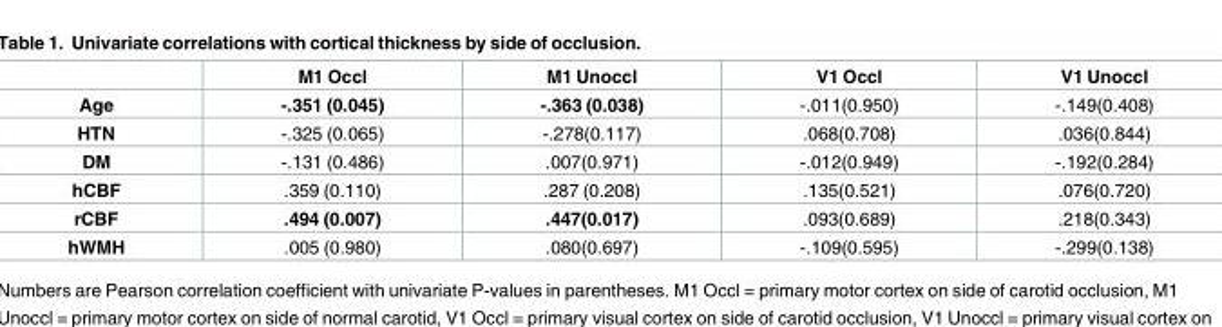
<table><thead><tr><td></td><td>M1 Occl</td><td>M1 Unoccl</td><td>V1 Occl</td><td>V1 Unoccl</td></tr></thead><tbody><tr><td>Age</td><td>-.351 (0.045)</td><td>-.363 (0.038)</td><td>-.011(0.950)</td><td>-.149(0.408)</td></tr><tr><td>HTN</td><td>-.325 (0.065)</td><td>-.278(0.117)</td><td>.068(0.708)</td><td>.036(0.844)</td></tr><tr><td>DM</td><td>-.131 (0.486)</td><td>.007(0.971)</td><td>-.012(0.949)</td><td>-.192(0.284)</td></tr><tr><td>hCBF</td><td>.359 (0.110)</td><td>.287 (0.208)</td><td>.135(0.521)</td><td>.076(0.720)</td></tr><tr><td>rCBF</td><td>.494 (0.007)</td><td>.447(0.017)</td><td>.093(0.689)</td><td>.218(0.343)</td></tr><tr><td>hWMH</td><td>.005 (0.980)</td><td>.080(0.697)</td><td>-.109(0.595)</td><td>-.299(0.138)</td></tr></tbody></table>